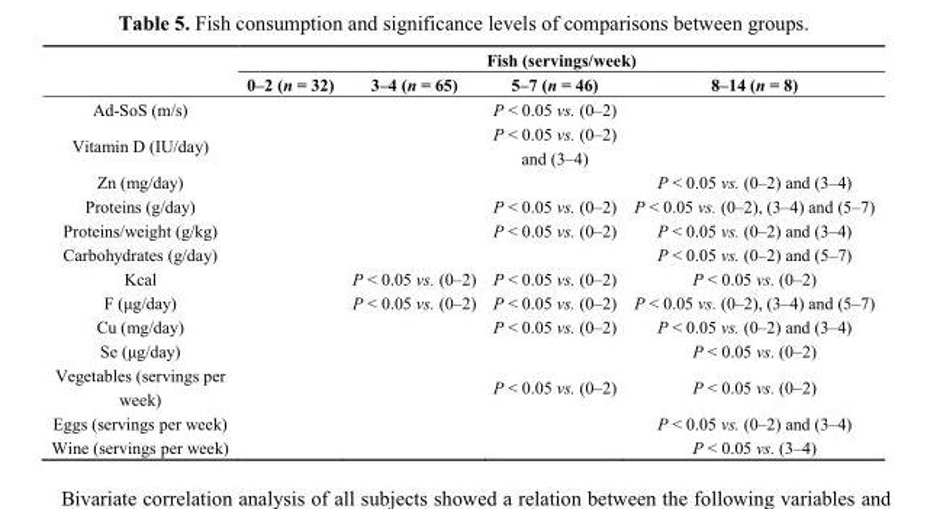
<table><thead><tr><td rowspan="2"></td><td colspan="4">Fish (servings/week)</td></tr><tr><td>0–2 (n = 32)</td><td>3–4 (n = 65)</td><td>5–7 (n = 46)</td><td>8–14 (n = 8)</td></tr></thead><tbody><tr><td>Ad-SoS (m/s)</td><td></td><td></td><td>P &lt; 0.05 vs. (0–2)</td><td></td></tr><tr><td>Vitamin D (IU/day)</td><td></td><td></td><td>P &lt; 0.05 vs. (0–2) and (3–4)</td><td></td></tr><tr><td>Zn (mg/day)</td><td></td><td></td><td></td><td>P &lt; 0.05 vs. (0–2) and (3–4)</td></tr><tr><td>Proteins (g/day)</td><td></td><td></td><td>P &lt; 0.05 vs. (0–2)</td><td>P &lt; 0.05 vs. (0–2), (3–4) and (5–7)</td></tr><tr><td>Proteins/weight (g/kg)</td><td></td><td></td><td>P &lt; 0.05 vs. (0–2)</td><td>P &lt; 0.05 vs. (0–2) and (3–4)</td></tr><tr><td>Carbohydrates (g/day)</td><td></td><td></td><td></td><td>P &lt; 0.05 vs. (0–2) and (5–7)</td></tr><tr><td>Kcal</td><td></td><td>P &lt; 0.05 vs. (0–2)</td><td>P &lt; 0.05 vs. (0–2)</td><td>P &lt; 0.05 vs. (0–2)</td></tr><tr><td>F (μg/day)</td><td></td><td>P &lt; 0.05 vs. (0–2)</td><td>P &lt; 0.05 vs. (0–2)</td><td>P &lt; 0.05 vs. (0–2), (3–4) and (5–7)</td></tr><tr><td>Cu (mg/day)</td><td></td><td></td><td>P &lt; 0.05 vs. (0–2)</td><td>P &lt; 0.05 vs. (0–2) and (3–4)</td></tr><tr><td>Se (μg/day)</td><td></td><td></td><td></td><td>P &lt; 0.05 vs. (0–2)</td></tr><tr><td>Vegetables (servings per week)</td><td></td><td></td><td>P &lt; 0.05 vs. (0–2)</td><td>P &lt; 0.05 vs. (0–2)</td></tr><tr><td>Eggs (servings per week)</td><td></td><td></td><td></td><td>P &lt; 0.05 vs. (0–2) and (3–4)</td></tr><tr><td>Wine (servings per week)</td><td></td><td></td><td></td><td>P &lt; 0.05 vs. (3–4)</td></tr></tbody></table>